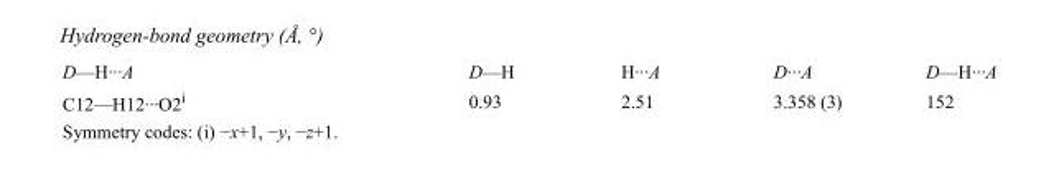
<table><tbody><tr><td>D—H···A</td><td>D—H</td><td>H···A</td><td>D···A</td><td>D—H···A</td></tr><tr><td>C12—H12···O2<sup>i</sup></td><td>0.93</td><td>2.51</td><td>3.358 (3)</td><td>152</td></tr></tbody></table>